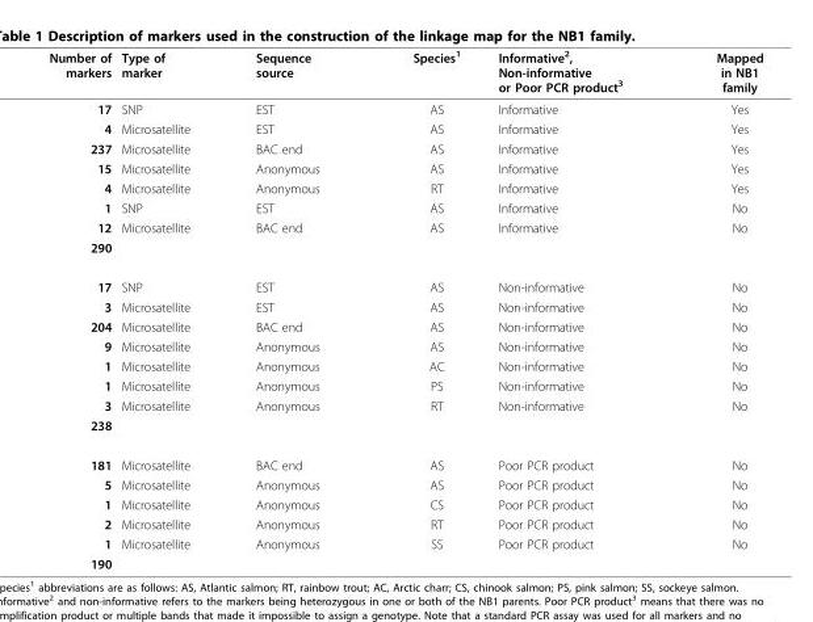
<table><thead><tr><td>Number of markers</td><td>Type of marker</td><td>Sequence source</td><td>Species<sup>1</sup></td><td>Informative<sup>2</sup>, Non-informative or Poor PCR product<sup>3</sup></td><td>Mapped in NB1 family</td></tr></thead><tbody><tr><td>17</td><td>SNP</td><td>EST</td><td>AS</td><td>Informative</td><td>Yes</td></tr><tr><td>4</td><td>Microsatellite</td><td>EST</td><td>AS</td><td>Informative</td><td>Yes</td></tr><tr><td>237</td><td>Microsatellite</td><td>BAC end</td><td>AS</td><td>Informative</td><td>Yes</td></tr><tr><td>15</td><td>Microsatellite</td><td>Anonymous</td><td>AS</td><td>Informative</td><td>Yes</td></tr><tr><td>4</td><td>Microsatellite</td><td>Anonymous</td><td>RT</td><td>Informative</td><td>Yes</td></tr><tr><td>1</td><td>SNP</td><td>EST</td><td>AS</td><td>Informative</td><td>No</td></tr><tr><td>12</td><td>Microsatellite</td><td>BAC end</td><td>AS</td><td>Informative</td><td>No</td></tr><tr><td colspan="6">290</td></tr><tr><td>17</td><td>SNP</td><td>EST</td><td>AS</td><td>Non-informative</td><td>No</td></tr><tr><td>3</td><td>Microsatellite</td><td>EST</td><td>AS</td><td>Non-informative</td><td>No</td></tr><tr><td>204</td><td>Microsatellite</td><td>BAC end</td><td>AS</td><td>Non-informative</td><td>No</td></tr><tr><td>9</td><td>Microsatellite</td><td>Anonymous</td><td>AS</td><td>Non-informative</td><td>No</td></tr><tr><td>1</td><td>Microsatellite</td><td>Anonymous</td><td>AC</td><td>Non-informative</td><td>No</td></tr><tr><td>1</td><td>Microsatellite</td><td>Anonymous</td><td>PS</td><td>Non-informative</td><td>No</td></tr><tr><td>3</td><td>Microsatellite</td><td>Anonymous</td><td>RT</td><td>Non-informative</td><td>No</td></tr><tr><td colspan="6">238</td></tr><tr><td>181</td><td>Microsatellite</td><td>BAC end</td><td>AS</td><td>Poor PCR product</td><td>No</td></tr><tr><td>5</td><td>Microsatellite</td><td>Anonymous</td><td>AS</td><td>Poor PCR product</td><td>No</td></tr><tr><td>1</td><td>Microsatellite</td><td>Anonymous</td><td>CS</td><td>Poor PCR product</td><td>No</td></tr><tr><td>2</td><td>Microsatellite</td><td>Anonymous</td><td>RT</td><td>Poor PCR product</td><td>No</td></tr><tr><td>1</td><td>Microsatellite</td><td>Anonymous</td><td>SS</td><td>Poor PCR product</td><td>No</td></tr><tr><td>190</td><td></td><td></td><td></td><td></td><td></td></tr></tbody></table>